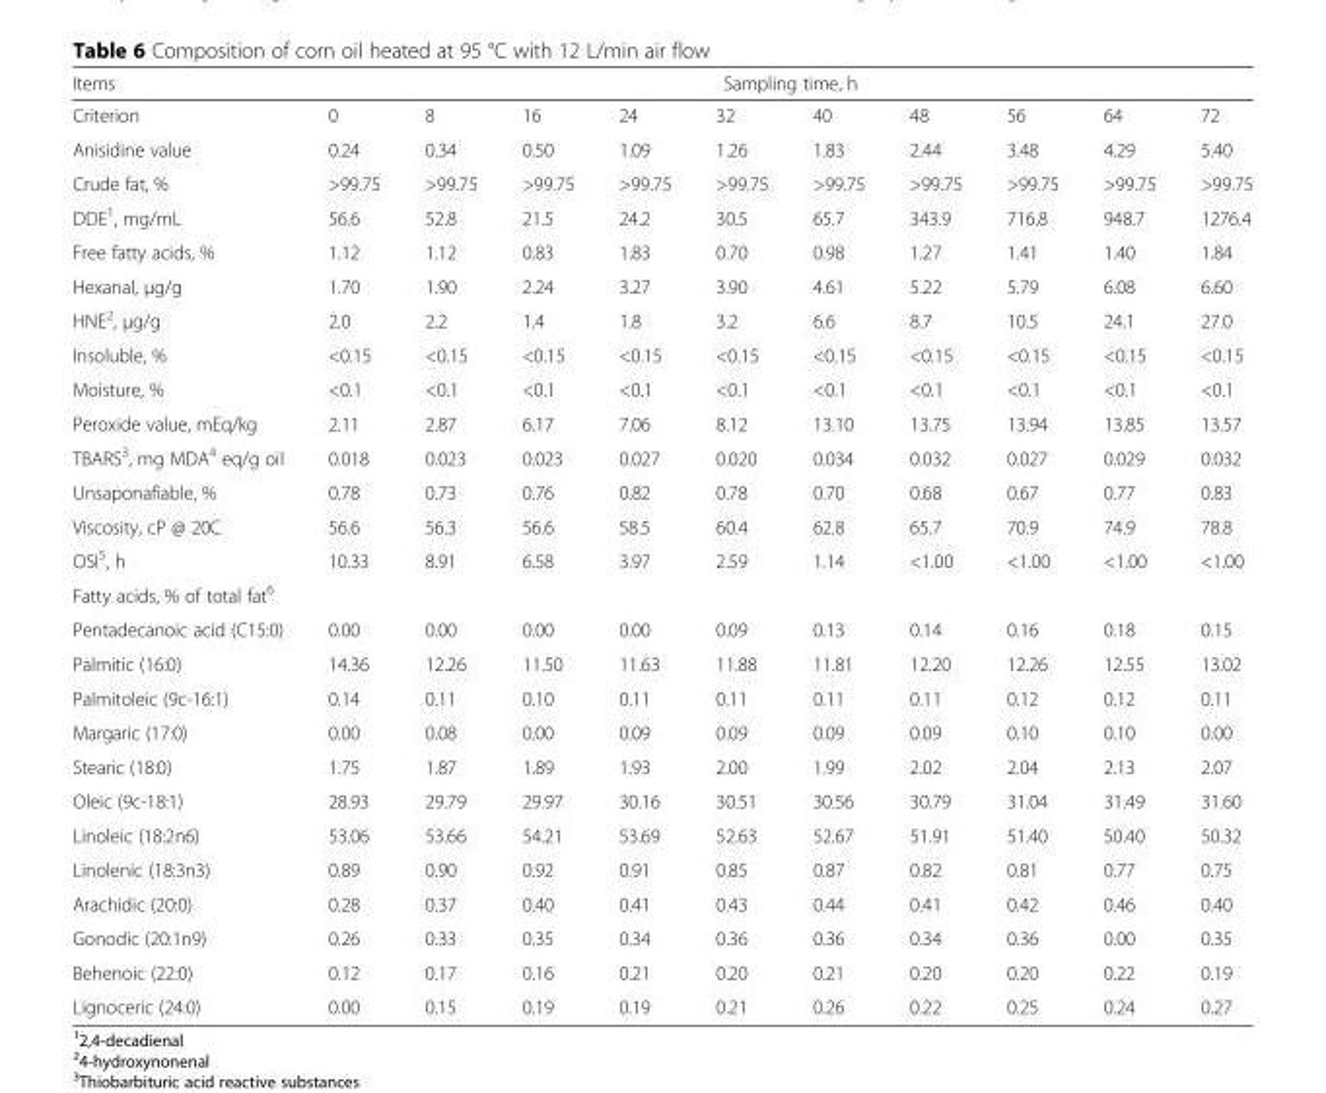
<table><thead><tr><td rowspan="2">Items Criterion</td><td colspan="10">Sampling time, h</td></tr><tr><td>0</td><td>8</td><td>16</td><td>24</td><td>32</td><td>40</td><td>48</td><td>56</td><td>64</td><td>72</td></tr></thead><tbody><tr><td>Anisidine value</td><td>0.24</td><td>0.34</td><td>0.50</td><td>1.09</td><td>1.26</td><td>1.83</td><td>2.44</td><td>3.48</td><td>4.29</td><td>5.40</td></tr><tr><td>Crude fat, %</td><td>&gt;99.75</td><td>&gt;99.75</td><td>&gt;99.75</td><td>&gt;99.75</td><td>&gt;99.75</td><td>&gt;99.75</td><td>&gt;99.75</td><td>&gt;99.75</td><td>&gt;99.75</td><td>&gt;99.75</td></tr><tr><td>DDE<sup>1</sup>, mg/mL</td><td>56.6</td><td>52.8</td><td>21.5</td><td>24.2</td><td>30.5</td><td>65.7</td><td>343.9</td><td>716.8</td><td>948.7</td><td>1276.4</td></tr><tr><td>Free fatty acids, %</td><td>1.12</td><td>1.12</td><td>0.83</td><td>1.83</td><td>0.70</td><td>0.98</td><td>1.27</td><td>1.41</td><td>1.40</td><td>1.84</td></tr><tr><td>Hexanal, μg/g</td><td>1.70</td><td>1.90</td><td>2.24</td><td>3.27</td><td>3.90</td><td>4.61</td><td>5.22</td><td>5.79</td><td>6.08</td><td>6.60</td></tr><tr><td>HNE<sup>2</sup>, μg/g</td><td>2.0</td><td>2.2</td><td>1.4</td><td>1.8</td><td>3.2</td><td>6.6</td><td>8.7</td><td>10.5</td><td>24.1</td><td>27.0</td></tr><tr><td>Insoluble, %</td><td>&lt;0.15</td><td>&lt;0.15</td><td>&lt;0.15</td><td>&lt;0.15</td><td>&lt;0.15</td><td>&lt;0.15</td><td>&lt;0.15</td><td>&lt;0.15</td><td>&lt;0.15</td><td>&lt;0.15</td></tr><tr><td>Moisture, %</td><td>&lt;0.1</td><td>&lt;0.1</td><td>&lt;0.1</td><td>&lt;0.1</td><td>&lt;0.1</td><td>&lt;0.1</td><td>&lt;0.1</td><td>&lt;0.1</td><td>&lt;0.1</td><td>&lt;0.1</td></tr><tr><td>Peroxide value, mEq/kg</td><td>2.11</td><td>2.87</td><td>6.17</td><td>7.06</td><td>8.12</td><td>13.10</td><td>13.75</td><td>13.94</td><td>13.85</td><td>13.57</td></tr><tr><td>TBARS<sup>3</sup>, mg MDA<sup>4</sup> eq/g oil</td><td>0.018</td><td>0.023</td><td>0.023</td><td>0.027</td><td>0.020</td><td>0.034</td><td>0.032</td><td>0.027</td><td>0.029</td><td>0.032</td></tr><tr><td>Unsaponafiable, %</td><td>0.78</td><td>0.73</td><td>0.76</td><td>0.82</td><td>0.78</td><td>0.70</td><td>0.68</td><td>0.67</td><td>0.77</td><td>0.83</td></tr><tr><td>Viscosity, cP @ 20C</td><td>56.6</td><td>56.3</td><td>56.6</td><td>58.5</td><td>60.4</td><td>62.8</td><td>65.7</td><td>70.9</td><td>74.9</td><td>78.8</td></tr><tr><td>OSI<sup>5</sup>, h</td><td>10.33</td><td>8.91</td><td>6.58</td><td>3.97</td><td>2.59</td><td>1.14</td><td>&lt;1.00</td><td>&lt;1.00</td><td>&lt;1.00</td><td>&lt;1.00</td></tr><tr><td colspan="11">Fatty acids, % of total fat<sup>6</sup></td></tr><tr><td>Pentadecanoic acid (C15:0)</td><td>0.00</td><td>0.00</td><td>0.00</td><td>0.00</td><td>0.09</td><td>0.13</td><td>0.14</td><td>0.16</td><td>0.18</td><td>0.15</td></tr><tr><td>Palmitic (16:0)</td><td>14.36</td><td>12.26</td><td>11.50</td><td>11.63</td><td>11.88</td><td>11.81</td><td>12.20</td><td>12.26</td><td>12.55</td><td>13.02</td></tr><tr><td>Palmitoleic (9c-16:1)</td><td>0.14</td><td>0.11</td><td>0.10</td><td>0.11</td><td>0.11</td><td>0.11</td><td>0.11</td><td>0.12</td><td>0.12</td><td>0.11</td></tr><tr><td>Margaric (17:0)</td><td>0.00</td><td>0.08</td><td>0.00</td><td>0.09</td><td>0.09</td><td>0.09</td><td>0.09</td><td>0.10</td><td>0.10</td><td>0.00</td></tr><tr><td>Stearic (18:0)</td><td>1.75</td><td>1.87</td><td>1.89</td><td>1.93</td><td>2.00</td><td>1.99</td><td>2.02</td><td>2.04</td><td>2.13</td><td>2.07</td></tr><tr><td>Oleic (9c-18:1)</td><td>28.93</td><td>29.79</td><td>29.97</td><td>30.16</td><td>30.51</td><td>30.56</td><td>30.79</td><td>31.04</td><td>31.49</td><td>31.60</td></tr><tr><td>Linoleic (18:2n6)</td><td>53.06</td><td>53.66</td><td>54.21</td><td>53.69</td><td>52.63</td><td>52.67</td><td>51.91</td><td>51.40</td><td>50.40</td><td>50.32</td></tr><tr><td>Linolenic (18:3n3)</td><td>0.89</td><td>0.90</td><td>0.92</td><td>0.91</td><td>0.85</td><td>0.87</td><td>0.82</td><td>0.81</td><td>0.77</td><td>0.75</td></tr><tr><td>Arachidic (20:0)</td><td>0.28</td><td>0.37</td><td>0.40</td><td>0.41</td><td>0.43</td><td>0.44</td><td>0.41</td><td>0.42</td><td>0.46</td><td>0.40</td></tr><tr><td>Gonodic (20:1n9)</td><td>0.26</td><td>0.33</td><td>0.35</td><td>0.34</td><td>0.36</td><td>0.36</td><td>0.34</td><td>0.36</td><td>0.00</td><td>0.35</td></tr><tr><td>Behenoic (22:0)</td><td>0.12</td><td>0.17</td><td>0.16</td><td>0.21</td><td>0.20</td><td>0.21</td><td>0.20</td><td>0.20</td><td>0.22</td><td>0.19</td></tr><tr><td>Lignoceric (24:0)</td><td>0.00</td><td>0.15</td><td>0.19</td><td>0.19</td><td>0.21</td><td>0.26</td><td>0.22</td><td>0.25</td><td>0.24</td><td>0.27</td></tr></tbody></table>